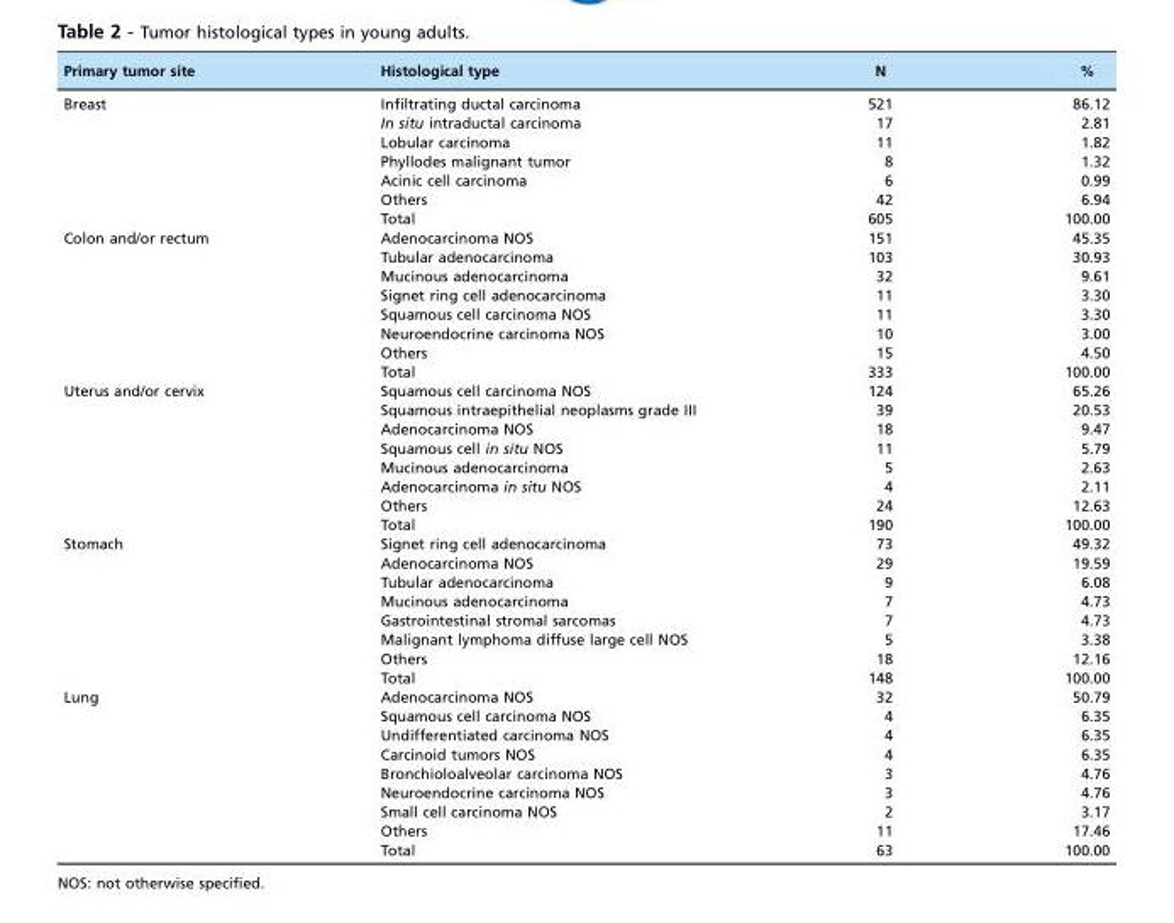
<table><thead><tr><td>Primary tumor site</td><td>Histological type</td><td>N</td><td>%</td></tr></thead><tbody><tr><td rowspan="7">Breast</td><td>Infiltrating ductal carcinoma</td><td>521</td><td>86.12</td></tr><tr><td>In situ intraductal carcinoma</td><td>17</td><td>2.81</td></tr><tr><td>Lobular carcinoma</td><td>11</td><td>1.82</td></tr><tr><td>Phyllodes malignant tumor</td><td>8</td><td>1.32</td></tr><tr><td>Acinic cell carcinoma</td><td>6</td><td>0.99</td></tr><tr><td>Others</td><td>42</td><td>6.94</td></tr><tr><td>Total</td><td>605</td><td>100.00</td></tr><tr><td rowspan="8">Colon and/or rectum</td><td>Adenocarcinoma NOS</td><td>151</td><td>45.35</td></tr><tr><td>Tubular adenocarcinoma</td><td>103</td><td>30.93</td></tr><tr><td>Mucinous adenocarcinoma</td><td>32</td><td>9.61</td></tr><tr><td>Signet ring cell adenocarcinoma</td><td>11</td><td>3.30</td></tr><tr><td>Squamous cell carcinoma NOS</td><td>11</td><td>3.30</td></tr><tr><td>Neuroendocrine carcinoma NOS</td><td>10</td><td>3.00</td></tr><tr><td>Others</td><td>15</td><td>4.50</td></tr><tr><td>Total</td><td>333</td><td>100.00</td></tr><tr><td rowspan="8">Uterus and/or cervix</td><td>Squamous cell carcinoma NOS</td><td>124</td><td>65.26</td></tr><tr><td>Squamous intraepithelial neoplasms grade III</td><td>39</td><td>20.53</td></tr><tr><td>Adenocarcinoma NOS</td><td>18</td><td>9.47</td></tr><tr><td>Squamous cell in situ NOS</td><td>11</td><td>5.79</td></tr><tr><td>Mucinous adenocarcinoma</td><td>5</td><td>2.63</td></tr><tr><td>Adenocarcinoma in situ NOS</td><td>4</td><td>2.11</td></tr><tr><td>Others</td><td>24</td><td>12.63</td></tr><tr><td>Total</td><td>190</td><td>100.00</td></tr><tr><td rowspan="8">Stomach</td><td>Signet ring cell adenocarcinoma</td><td>73</td><td>49.32</td></tr><tr><td>Adenocarcinoma NOS</td><td>29</td><td>19.59</td></tr><tr><td>Tubular adenocarcinoma</td><td>9</td><td>6.08</td></tr><tr><td>Mucinous adenocarcinoma</td><td>7</td><td>4.73</td></tr><tr><td>Gastrointestinal stromal sarcomas</td><td>7</td><td>4.73</td></tr><tr><td>Malignant lymphoma diffuse large cell NOS</td><td>5</td><td>3.38</td></tr><tr><td>Others</td><td>18</td><td>12.16</td></tr><tr><td>Total</td><td>148</td><td>100.00</td></tr><tr><td rowspan="9">Lung</td><td>Adenocarcinoma NOS</td><td>32</td><td>50.79</td></tr><tr><td>Squamous cell carcinoma NOS</td><td>4</td><td>6.35</td></tr><tr><td>Undifferentiated carcinoma NOS</td><td>4</td><td>6.35</td></tr><tr><td>Carcinoid tumors NOS</td><td>4</td><td>6.35</td></tr><tr><td>Bronchioloalveolar carcinoma NOS</td><td>3</td><td>4.76</td></tr><tr><td>Neuroendocrine carcinoma NOS</td><td>3</td><td>4.76</td></tr><tr><td>Small cell carcinoma NOS</td><td>2</td><td>3.17</td></tr><tr><td>Others</td><td>11</td><td>17.46</td></tr><tr><td>Total</td><td>63</td><td>100.00</td></tr></tbody></table>